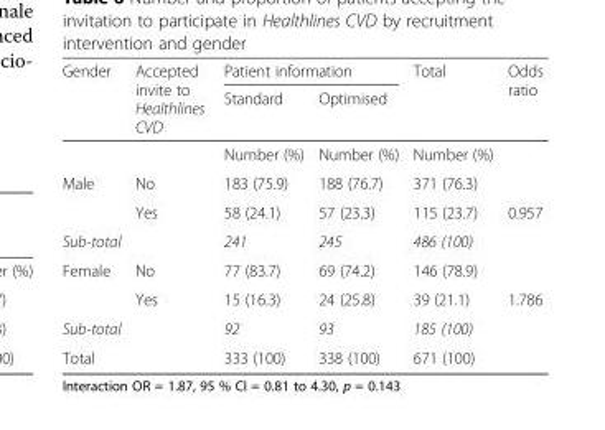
<table><thead><tr><td rowspan="2">Gender</td><td rowspan="2">Accepted invite to Healthlines CVD</td><td colspan="2">Patient information</td><td rowspan="2">Total</td><td rowspan="2">Odds ratio</td></tr><tr><td>Standard</td><td>Optimised</td></tr></thead><tbody><tr><td></td><td></td><td>Number (%)</td><td>Number (%)</td><td>Number (%)</td><td></td></tr><tr><td rowspan="2">Male</td><td>No</td><td>183 (75.9)</td><td>188 (76.7)</td><td>371 (76.3)</td><td></td></tr><tr><td>Yes</td><td>58 (24.1)</td><td>57 (23.3)</td><td>115 (23.7)</td><td>0.957</td></tr><tr><td>Sub-total</td><td></td><td>241</td><td>245</td><td>486 (100)</td><td></td></tr><tr><td rowspan="2">Female</td><td>No</td><td>77 (83.7)</td><td>69 (74.2)</td><td>146 (78.9)</td><td></td></tr><tr><td>Yes</td><td>15 (16.3)</td><td>24 (25.8)</td><td>39 (21.1)</td><td>1.786</td></tr><tr><td>Sub-total</td><td></td><td>92</td><td>93</td><td>185 (100)</td><td></td></tr><tr><td>Total</td><td></td><td>333 (100)</td><td>338 (100)</td><td>671 (100)</td><td></td></tr></tbody></table>